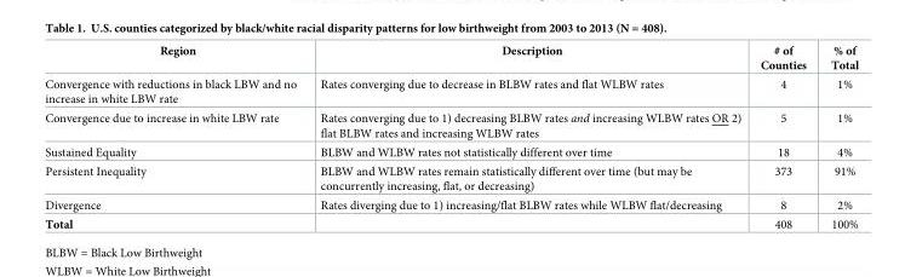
<table><thead><tr><td>Region</td><td>Description</td><td># of Counties</td><td>% of Total</td></tr></thead><tbody><tr><td>Convergence with reductions in black LBW and no increase in white LBW rate</td><td>Rates converging due to decrease in BLBW rates and flat WLBW rates</td><td>4</td><td>1%</td></tr><tr><td>Convergence due to increase in white LBW rate</td><td>Rates converging due to 1) decreasing BLBW rates and increasing WLBW rates OR 2) flat BLBW rates and increasing WLBW rates</td><td>5</td><td>1%</td></tr><tr><td>Sustained Equality</td><td>BLBW and WLBW rates not statistically different over time</td><td>18</td><td>4%</td></tr><tr><td>Persistent Inequality</td><td>BLBW and WLBW rates remain statistically different over time (but may be concurrently increasing, flat, or decreasing)</td><td>373</td><td>91%</td></tr><tr><td>Divergence</td><td>Rates diverging due to 1) increasing/flat BLBW rates while WLBW flat/decreasing</td><td>8</td><td>2%</td></tr><tr><td>Total</td><td></td><td>408</td><td>100%</td></tr></tbody></table>